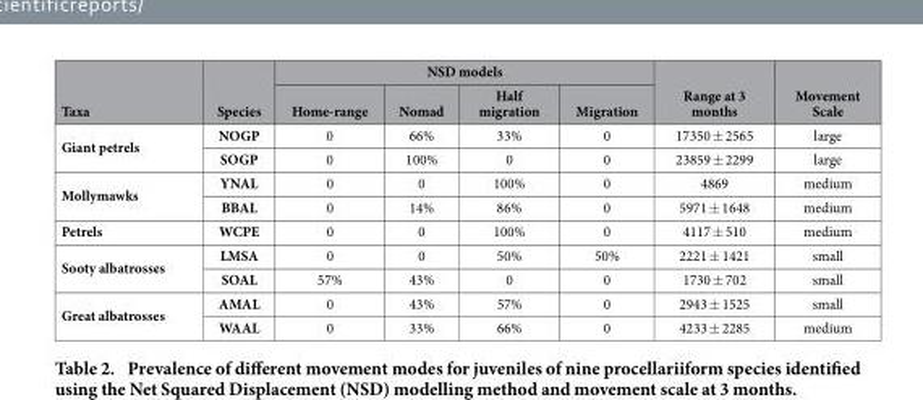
<table><thead><tr><td rowspan="2">Taxa</td><td rowspan="2">Species</td><td colspan="4">NSD models</td><td rowspan="2">Range at 3 months</td><td rowspan="2">Movement Scale</td></tr><tr><td>Home-range</td><td>Nomad</td><td>Half migration</td><td>Migration</td></tr></thead><tbody><tr><td rowspan="2">Giant petrels</td><td>NOGP</td><td>0</td><td>66%</td><td>33%</td><td>0</td><td>17350 ± 2565</td><td>large</td></tr><tr><td>SOGP</td><td>0</td><td>100%</td><td>0</td><td>0</td><td>23859 ± 2299</td><td>large</td></tr><tr><td rowspan="2">Mollymawks</td><td>YNAL</td><td>0</td><td>0</td><td>100%</td><td>0</td><td>4869</td><td>medium</td></tr><tr><td>BBAL</td><td>0</td><td>14%</td><td>86%</td><td>0</td><td>5971 ± 1648</td><td>medium</td></tr><tr><td>Petrels</td><td>WCPE</td><td>0</td><td>0</td><td>100%</td><td>0</td><td>4117 ± 510</td><td>medium</td></tr><tr><td rowspan="2">Sooty albatrosses</td><td>LMSA</td><td>0</td><td>0</td><td>50%</td><td>50%</td><td>2221 ± 1421</td><td>small</td></tr><tr><td>SOAL</td><td>57%</td><td>43%</td><td>0</td><td>0</td><td>1730 ± 702</td><td>small</td></tr><tr><td rowspan="2">Great albatrosses</td><td>AMAL</td><td>0</td><td>43%</td><td>57%</td><td>0</td><td>2943 ± 1525</td><td>small</td></tr><tr><td>WAAL</td><td>0</td><td>33%</td><td>66%</td><td>0</td><td>4233 ± 2285</td><td>medium</td></tr></tbody></table>